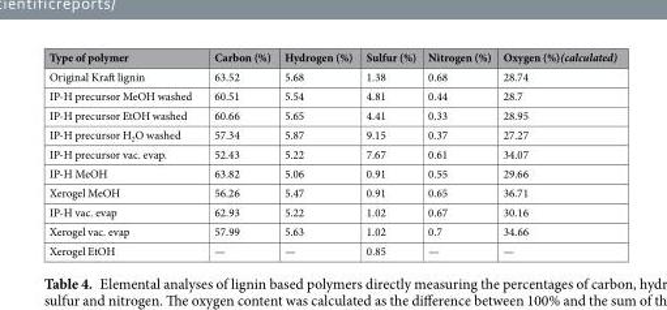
<table><thead><tr><td>Type of polymer</td><td>Carbon (%)</td><td>Hydrogen (%)</td><td>Sulfur (%)</td><td>Nitrogen (%)</td><td>Oxygen (%)(calculated)</td></tr></thead><tbody><tr><td>Original Kraft lignin</td><td>63.52</td><td>5.68</td><td>1.38</td><td>0.68</td><td>28.74</td></tr><tr><td>IP-H precursor MeOH washed</td><td>60.51</td><td>5.54</td><td>4.81</td><td>0.44</td><td>28.7</td></tr><tr><td>IP-H precursor EtOH washed</td><td>60.66</td><td>5.65</td><td>4.41</td><td>0.33</td><td>28.95</td></tr><tr><td>IP-H precursor H<sub>2</sub>O washed</td><td>57.34</td><td>5.87</td><td>9.15</td><td>0.37</td><td>27.27</td></tr><tr><td>IP-H precursor vac. evap.</td><td>52.43</td><td>5.22</td><td>7.67</td><td>0.61</td><td>34.07</td></tr><tr><td>IP-H MeOH</td><td>63.82</td><td>5.06</td><td>0.91</td><td>0.55</td><td>29.66</td></tr><tr><td>Xerogel MeOH</td><td>56.26</td><td>5.47</td><td>0.91</td><td>0.65</td><td>36.71</td></tr><tr><td>IP-H vac. evap</td><td>62.93</td><td>5.22</td><td>1.02</td><td>0.67</td><td>30.16</td></tr><tr><td>Xerogel vac. evap</td><td>57.99</td><td>5.63</td><td>1.02</td><td>0.7</td><td>34.66</td></tr><tr><td>Xerogel EtOH</td><td>—</td><td>—</td><td>0.85</td><td>—</td><td>—</td></tr></tbody></table>